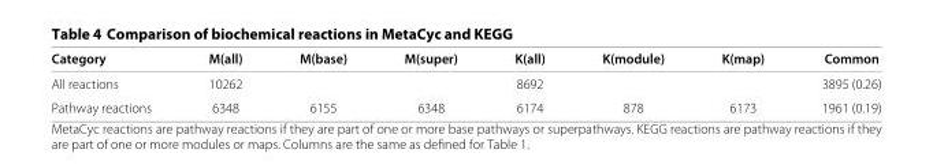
<table><thead><tr><td>Category</td><td>M(all)</td><td>M(base)</td><td>M(super)</td><td>K(all)</td><td>K(module)</td><td>K(map)</td><td>Common</td></tr></thead><tbody><tr><td>All reactions</td><td>10262</td><td></td><td></td><td>8692</td><td></td><td></td><td>3895 (0.26)</td></tr><tr><td>Pathway reactions</td><td>6348</td><td>6155</td><td>6348</td><td>6174</td><td>878</td><td>6173</td><td>1961 (0.19)</td></tr></tbody></table>